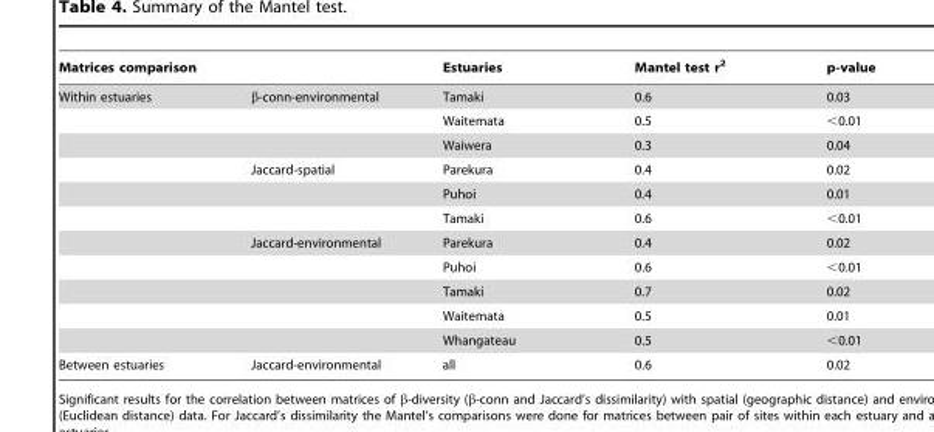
<table><thead><tr><td>Matrices comparison</td><td></td><td>Estuaries</td><td>Mantel test r<sup>2</sup></td><td>p-value</td></tr></thead><tbody><tr><td rowspan="11">Within estuaries</td><td>β-conn-environmental</td><td>Tamaki</td><td>0.6</td><td>0.03</td></tr><tr><td></td><td>Waitemata</td><td>0.5</td><td>&lt;0.01</td></tr><tr><td></td><td>Waiwera</td><td>0.3</td><td>0.04</td></tr><tr><td>Jaccard-spatial</td><td>Parekura</td><td>0.4</td><td>0.02</td></tr><tr><td></td><td>Puhoi</td><td>0.4</td><td>0.01</td></tr><tr><td></td><td>Tamaki</td><td>0.6</td><td>&lt;0.01</td></tr><tr><td>Jaccard-environmental</td><td>Parekura</td><td>0.4</td><td>0.02</td></tr><tr><td></td><td>Puhoi</td><td>0.6</td><td>&lt;0.01</td></tr><tr><td></td><td>Tamaki</td><td>0.7</td><td>0.02</td></tr><tr><td></td><td>Waitemata</td><td>0.5</td><td>0.01</td></tr><tr><td></td><td>Whangateau</td><td>0.5</td><td>&lt;0.01</td></tr><tr><td>Between estuaries</td><td>Jaccard-environmental</td><td>all</td><td>0.6</td><td>0.02</td></tr></tbody></table>